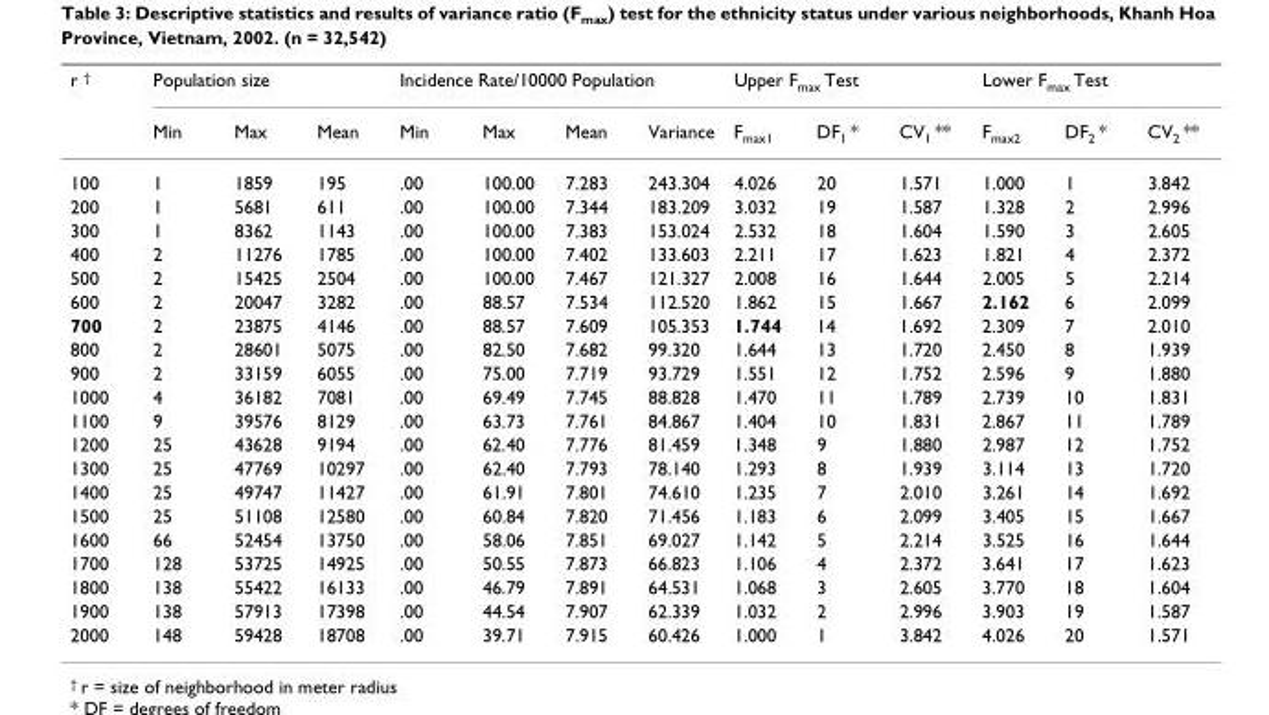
<table><thead><tr><td rowspan="2">r <sup>†</sup></td><td colspan="3">Population size</td><td colspan="4">Incidence Rate/10000 Population</td><td colspan="3">Upper F<sub>max</sub> Test</td><td colspan="3">Lower F<sub>max</sub> Test</td></tr><tr><td>Min</td><td>Max</td><td>Mean</td><td>Min</td><td>Max</td><td>Mean</td><td>Variance</td><td>F<sub>max1</sub></td><td>DF<sub>1</sub> *</td><td>CV<sub>1</sub> **</td><td>F<sub>max2</sub></td><td>DF<sub>2</sub> *</td><td>CV<sub>2</sub> **</td></tr></thead><tbody><tr><td>100</td><td>1</td><td>1859</td><td>195</td><td>.00</td><td>100.00</td><td>7.283</td><td>243.304</td><td>4.026</td><td>20</td><td>1.571</td><td>1.000</td><td>1</td><td>3.842</td></tr><tr><td>200</td><td>1</td><td>5681</td><td>611</td><td>.00</td><td>100.00</td><td>7.344</td><td>183.209</td><td>3.032</td><td>19</td><td>1.587</td><td>1.328</td><td>2</td><td>2.996</td></tr><tr><td>300</td><td>1</td><td>8362</td><td>1143</td><td>.00</td><td>100.00</td><td>7.383</td><td>153.024</td><td>2.532</td><td>18</td><td>1.604</td><td>1.590</td><td>3</td><td>2.605</td></tr><tr><td>400</td><td>2</td><td>11276</td><td>1785</td><td>.00</td><td>100.00</td><td>7.402</td><td>133.603</td><td>2.211</td><td>17</td><td>1.623</td><td>1.821</td><td>4</td><td>2.372</td></tr><tr><td>500</td><td>2</td><td>15425</td><td>2504</td><td>.00</td><td>100.00</td><td>7.467</td><td>121.327</td><td>2.008</td><td>16</td><td>1.644</td><td>2.005</td><td>5</td><td>2.214</td></tr><tr><td>600</td><td>2</td><td>20047</td><td>3282</td><td>.00</td><td>88.57</td><td>7.534</td><td>112.520</td><td>1.862</td><td>15</td><td>1.667</td><td>2.162</td><td>6</td><td>2.099</td></tr><tr><td>700</td><td>2</td><td>23875</td><td>4146</td><td>.00</td><td>88.57</td><td>7.609</td><td>105.353</td><td>1.744</td><td>14</td><td>1.692</td><td>2.309</td><td>7</td><td>2.010</td></tr><tr><td>800</td><td>2</td><td>28601</td><td>5075</td><td>.00</td><td>82.50</td><td>7.682</td><td>99.320</td><td>1.644</td><td>13</td><td>1.720</td><td>2.450</td><td>8</td><td>1.939</td></tr><tr><td>900</td><td>2</td><td>33159</td><td>6055</td><td>.00</td><td>75.00</td><td>7.719</td><td>93.729</td><td>1.551</td><td>12</td><td>1.752</td><td>2.596</td><td>9</td><td>1.880</td></tr><tr><td>1000</td><td>4</td><td>36182</td><td>7081</td><td>.00</td><td>69.49</td><td>7.745</td><td>88.828</td><td>1.470</td><td>11</td><td>1.789</td><td>2.739</td><td>10</td><td>1.831</td></tr><tr><td>1100</td><td>9</td><td>39576</td><td>8129</td><td>.00</td><td>63.73</td><td>7.761</td><td>84.867</td><td>1.404</td><td>10</td><td>1.831</td><td>2.867</td><td>11</td><td>1.789</td></tr><tr><td>1200</td><td>25</td><td>43628</td><td>9194</td><td>.00</td><td>62.40</td><td>7.776</td><td>81.459</td><td>1.348</td><td>9</td><td>1.880</td><td>2.987</td><td>12</td><td>1.752</td></tr><tr><td>1300</td><td>25</td><td>47769</td><td>10297</td><td>.00</td><td>62.40</td><td>7.793</td><td>78.140</td><td>1.293</td><td>8</td><td>1.939</td><td>3.114</td><td>13</td><td>1.720</td></tr><tr><td>1400</td><td>25</td><td>49747</td><td>11427</td><td>.00</td><td>61.91</td><td>7.801</td><td>74.610</td><td>1.235</td><td>7</td><td>2.010</td><td>3.261</td><td>14</td><td>1.692</td></tr><tr><td>1500</td><td>25</td><td>51108</td><td>12580</td><td>.00</td><td>60.84</td><td>7.820</td><td>71.456</td><td>1.183</td><td>6</td><td>2.099</td><td>3.405</td><td>15</td><td>1.667</td></tr><tr><td>1600</td><td>66</td><td>52454</td><td>13750</td><td>.00</td><td>58.06</td><td>7.851</td><td>69.027</td><td>1.142</td><td>5</td><td>2.214</td><td>3.525</td><td>16</td><td>1.644</td></tr><tr><td>1700</td><td>128</td><td>53725</td><td>14925</td><td>.00</td><td>50.55</td><td>7.873</td><td>66.823</td><td>1.106</td><td>4</td><td>2.372</td><td>3.641</td><td>17</td><td>1.623</td></tr><tr><td>1800</td><td>138</td><td>55422</td><td>16133</td><td>.00</td><td>46.79</td><td>7.891</td><td>64.531</td><td>1.068</td><td>3</td><td>2.605</td><td>3.770</td><td>18</td><td>1.604</td></tr><tr><td>1900</td><td>138</td><td>57913</td><td>17398</td><td>.00</td><td>44.54</td><td>7.907</td><td>62.339</td><td>1.032</td><td>2</td><td>2.996</td><td>3.903</td><td>19</td><td>1.587</td></tr><tr><td>2000</td><td>148</td><td>59428</td><td>18708</td><td>.00</td><td>39.71</td><td>7.915</td><td>60.426</td><td>1.000</td><td>1</td><td>3.842</td><td>4.026</td><td>20</td><td>1.571</td></tr></tbody></table>